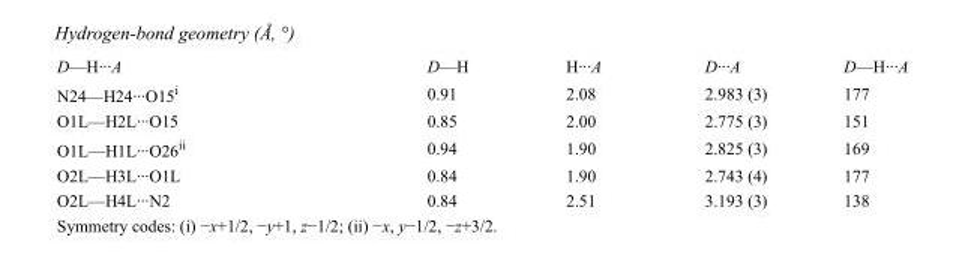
<table><tbody><tr><td>D—H···A</td><td>D—H</td><td>H···A</td><td>D···A</td><td>D—H···A</td></tr><tr><td>N24—H24···O15<sup>i</sup></td><td>0.91</td><td>2.08</td><td>2.983 (3)</td><td>177</td></tr><tr><td>O1L—H2L···O15</td><td>0.85</td><td>2.00</td><td>2.775 (3)</td><td>151</td></tr><tr><td>O1L—H1L···O26<sup>ii</sup></td><td>0.94</td><td>1.90</td><td>2.825 (3)</td><td>169</td></tr><tr><td>O2L—H3L···O1L</td><td>0.84</td><td>1.90</td><td>2.743 (4)</td><td>177</td></tr><tr><td>O2L—H4L···N2</td><td>0.84</td><td>2.51</td><td>3.193 (3)</td><td>138</td></tr></tbody></table>